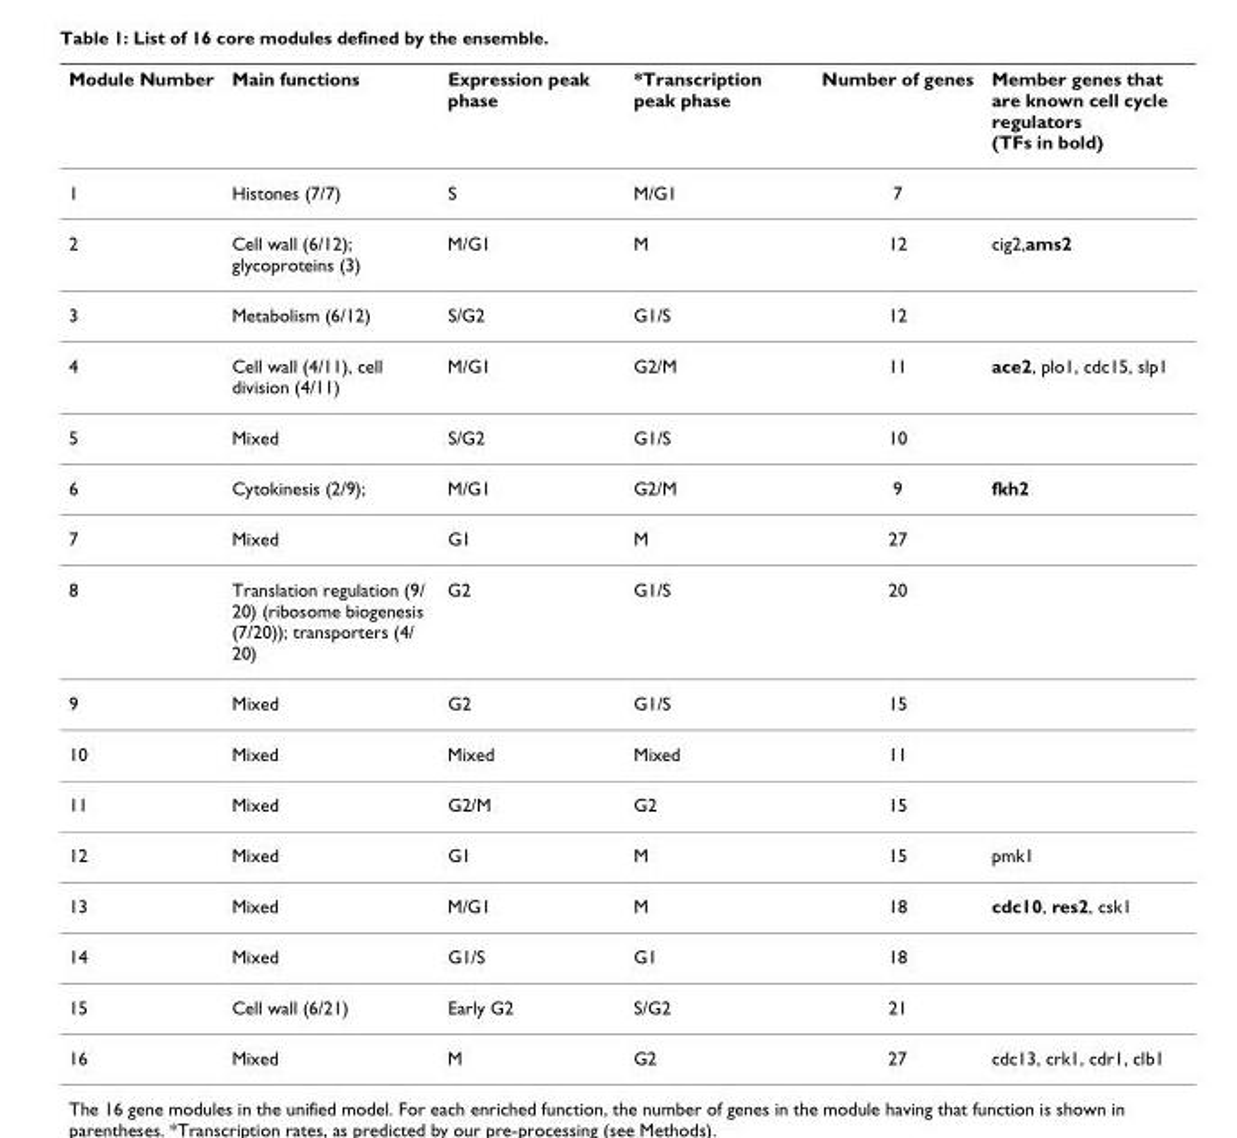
<table><thead><tr><td>Module Number</td><td>Main functions</td><td>Expression peak phase</td><td>*Transcription peak phase</td><td>Number of genes</td><td>Member genes that are known cell cycle regulators (TFs in bold)</td></tr></thead><tbody><tr><td>1</td><td>Histones (7/7)</td><td>S</td><td>M/G1</td><td>7</td><td></td></tr><tr><td>2</td><td>Cell wall (6/12); glycoproteins (3)</td><td>M/G1</td><td>M</td><td>12</td><td>cig2,ams2</td></tr><tr><td>3</td><td>Metabolism (6/12)</td><td>S/G2</td><td>G1/S</td><td>12</td><td></td></tr><tr><td>4</td><td>Cell wall (4/11), cell division (4/11)</td><td>M/G1</td><td>G2/M</td><td>11</td><td>ace2, plo1, cdc15, slp1</td></tr><tr><td>5</td><td>Mixed</td><td>S/G2</td><td>G1/S</td><td>10</td><td></td></tr><tr><td>6</td><td>Cytokinesis (2/9);</td><td>M/G1</td><td>G2/M</td><td>9</td><td>fkh2</td></tr><tr><td>7</td><td>Mixed</td><td>G1</td><td>M</td><td>27</td><td></td></tr><tr><td>8</td><td>Translation regulation (9/ 20) (ribosome biogenesis (7/20)); transporters (4/ 20)</td><td>G2</td><td>G1/S</td><td>20</td><td></td></tr><tr><td>9</td><td>Mixed</td><td>G2</td><td>G1/S</td><td>15</td><td></td></tr><tr><td>10</td><td>Mixed</td><td>Mixed</td><td>Mixed</td><td>11</td><td></td></tr><tr><td>11</td><td>Mixed</td><td>G2/M</td><td>G2</td><td>15</td><td></td></tr><tr><td>12</td><td>Mixed</td><td>G1</td><td>M</td><td>15</td><td>pmk1</td></tr><tr><td>13</td><td>Mixed</td><td>M/G1</td><td>M</td><td>18</td><td>cdc10, res2, csk1</td></tr><tr><td>14</td><td>Mixed</td><td>G1/S</td><td>G1</td><td>18</td><td></td></tr><tr><td>15</td><td>Cell wall (6/21)</td><td>Early G2</td><td>S/G2</td><td>21</td><td></td></tr><tr><td>16</td><td>Mixed</td><td>M</td><td>G2</td><td>27</td><td>cdc13, crk1, cdr1, clb1</td></tr></tbody></table>